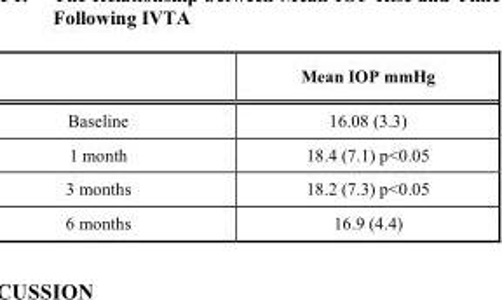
<table><thead><tr><td></td><td>Mean IOP mmHg</td></tr></thead><tbody><tr><td>Baseline</td><td>16.08 (3.3)</td></tr><tr><td>1 month</td><td>18.4 (7.1) p&lt;0.05</td></tr><tr><td>3 months</td><td>18.2 (7.3) p&lt;0.05</td></tr><tr><td>6 months</td><td>16.9 (4.4)</td></tr></tbody></table>